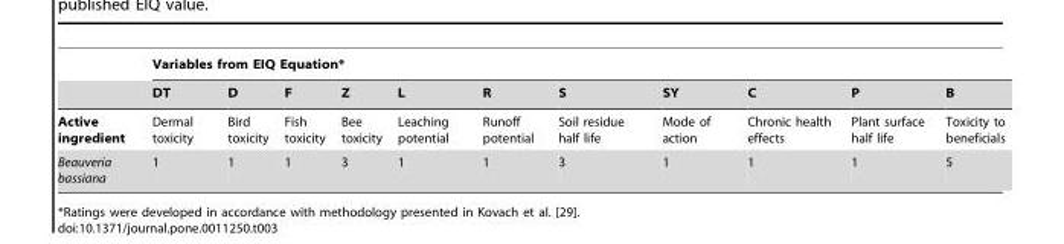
<table><thead><tr><td rowspan="2"></td><td colspan="11">Variables from EIQ Equation*</td></tr><tr><td>DT</td><td>D</td><td>F</td><td>Z</td><td>L</td><td>R</td><td>S</td><td>SY</td><td>C</td><td>P</td><td>B</td></tr></thead><tbody><tr><td>Active ingredient</td><td>Dermal toxicity</td><td>Bird toxicity</td><td>Fish toxicity</td><td>Bee toxicity</td><td>Leaching potential</td><td>Runoff potential</td><td>Soil residue half life</td><td>Mode of action</td><td>Chronic health effects</td><td>Plant surface half life</td><td>Toxicity to beneficials</td></tr><tr><td>Beauveria bassiana</td><td>1</td><td>1</td><td>1</td><td>3</td><td>1</td><td>1</td><td>3</td><td>1</td><td>1</td><td>1</td><td>5</td></tr></tbody></table>